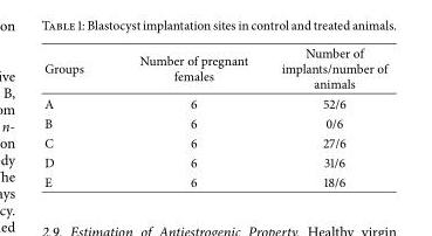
<table><thead><tr><td>Groups</td><td>Number of pregnant females</td><td>Number of implants/number of animals</td></tr></thead><tbody><tr><td>A</td><td>6</td><td>52/6</td></tr><tr><td>B</td><td>6</td><td>0/6</td></tr><tr><td>C</td><td>6</td><td>27/6</td></tr><tr><td>D</td><td>6</td><td>31/6</td></tr><tr><td>E</td><td>6</td><td>18/6</td></tr></tbody></table>